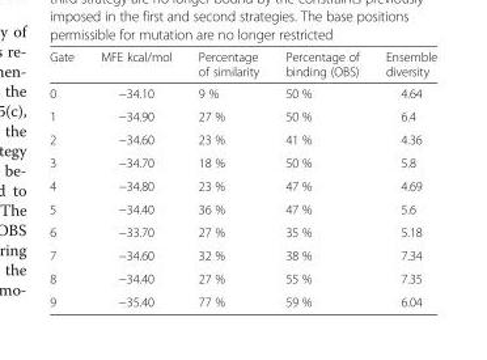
<table><thead><tr><td>Gate</td><td>MFE kcal/mol</td><td>Percentage of similarity</td><td>Percentage of binding (OBS)</td><td>Ensemble diversity</td></tr></thead><tbody><tr><td>0</td><td>−34.10</td><td>9 %</td><td>50 %</td><td>4.64</td></tr><tr><td>1</td><td>−34.90</td><td>27 %</td><td>50 %</td><td>6.4</td></tr><tr><td>2</td><td>−34.60</td><td>23 %</td><td>41 %</td><td>4.36</td></tr><tr><td>3</td><td>−34.70</td><td>18 %</td><td>50 %</td><td>5.8</td></tr><tr><td>4</td><td>−34.80</td><td>23 %</td><td>47 %</td><td>4.69</td></tr><tr><td>5</td><td>−34.40</td><td>36 %</td><td>47 %</td><td>5.6</td></tr><tr><td>6</td><td>−33.70</td><td>27 %</td><td>35 %</td><td>5.18</td></tr><tr><td>7</td><td>−34.60</td><td>32 %</td><td>38 %</td><td>7.34</td></tr><tr><td>8</td><td>−34.40</td><td>27 %</td><td>55 %</td><td>7.35</td></tr><tr><td>9</td><td>−35.40</td><td>77 %</td><td>59 %</td><td>6.04</td></tr></tbody></table>